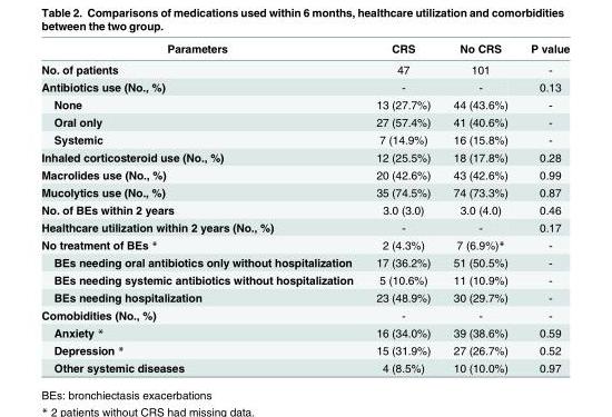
<table><thead><tr><td>Parameters</td><td>CRS</td><td>No CRS</td><td>P value</td></tr></thead><tbody><tr><td>No. of patients</td><td>47</td><td>101</td><td>-</td></tr><tr><td>Antibiotics use (No., %)</td><td>-</td><td>-</td><td>0.13</td></tr><tr><td>None</td><td>13 (27.7%)</td><td>44 (43.6%)</td><td>-</td></tr><tr><td>Oral only</td><td>27 (57.4%)</td><td>41 (40.6%)</td><td>-</td></tr><tr><td>Systemic</td><td>7 (14.9%)</td><td>16 (15.8%)</td><td>-</td></tr><tr><td>Inhaled corticosteroid use (No., %)</td><td>12 (25.5%)</td><td>18 (17.8%)</td><td>0.28</td></tr><tr><td>Macrolides use (No., %)</td><td>20 (42.6%)</td><td>43 (42.6%)</td><td>0.99</td></tr><tr><td>Mucolytics use (No., %)</td><td>35 (74.5%)</td><td>74 (73.3%)</td><td>0.87</td></tr><tr><td>No. of BEs within 2 years</td><td>3.0 (3.0)</td><td>3.0 (4.0)</td><td>0.46</td></tr><tr><td>Healthcare utilization within 2 years (No., %)</td><td>-</td><td>-</td><td>0.17</td></tr><tr><td>No treatment of BEs *</td><td>2 (4.3%)</td><td>7 (6.9%)*</td><td>-</td></tr><tr><td>BEs needing oral antibiotics only without hospitalization</td><td>17 (36.2%)</td><td>51 (50.5%)</td><td>-</td></tr><tr><td>BEs needing systemic antibiotics without hospitalization</td><td>5 (10.6%)</td><td>11 (10.9%)</td><td>-</td></tr><tr><td>BEs needing hospitalization</td><td>23 (48.9%)</td><td>30 (29.7%)</td><td>-</td></tr><tr><td>Comobidities (No., %)</td><td>-</td><td>-</td><td>-</td></tr><tr><td>Anxiety *</td><td>16 (34.0%)</td><td>39 (38.6%)</td><td>0.59</td></tr><tr><td>Depression *</td><td>15 (31.9%)</td><td>27 (26.7%)</td><td>0.52</td></tr><tr><td>Other systemic diseases</td><td>4 (8.5%)</td><td>10 (10.0%)</td><td>0.97</td></tr></tbody></table>